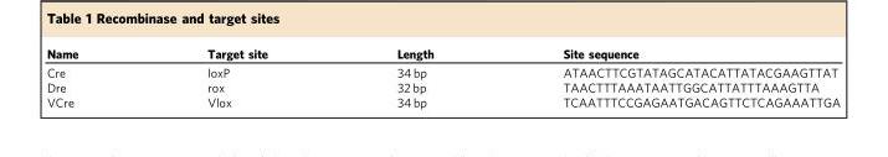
<table><thead><tr><td>Name</td><td>Target site</td><td>Length</td><td>Site sequence</td></tr></thead><tbody><tr><td>Cre</td><td>loxP</td><td>34 bp</td><td>ATAACTTCGTATAGCATACATTATACGAAGTTAT</td></tr><tr><td>Dre</td><td>rox</td><td>32 bp</td><td>TAACTTTAAATAATTGGCATTATTTAAAGTTA</td></tr><tr><td>VCre</td><td>Vlox</td><td>34 bp</td><td>TCAATTTCCGAGAATGACAGTTCTCAGAAATTGA</td></tr></tbody></table>